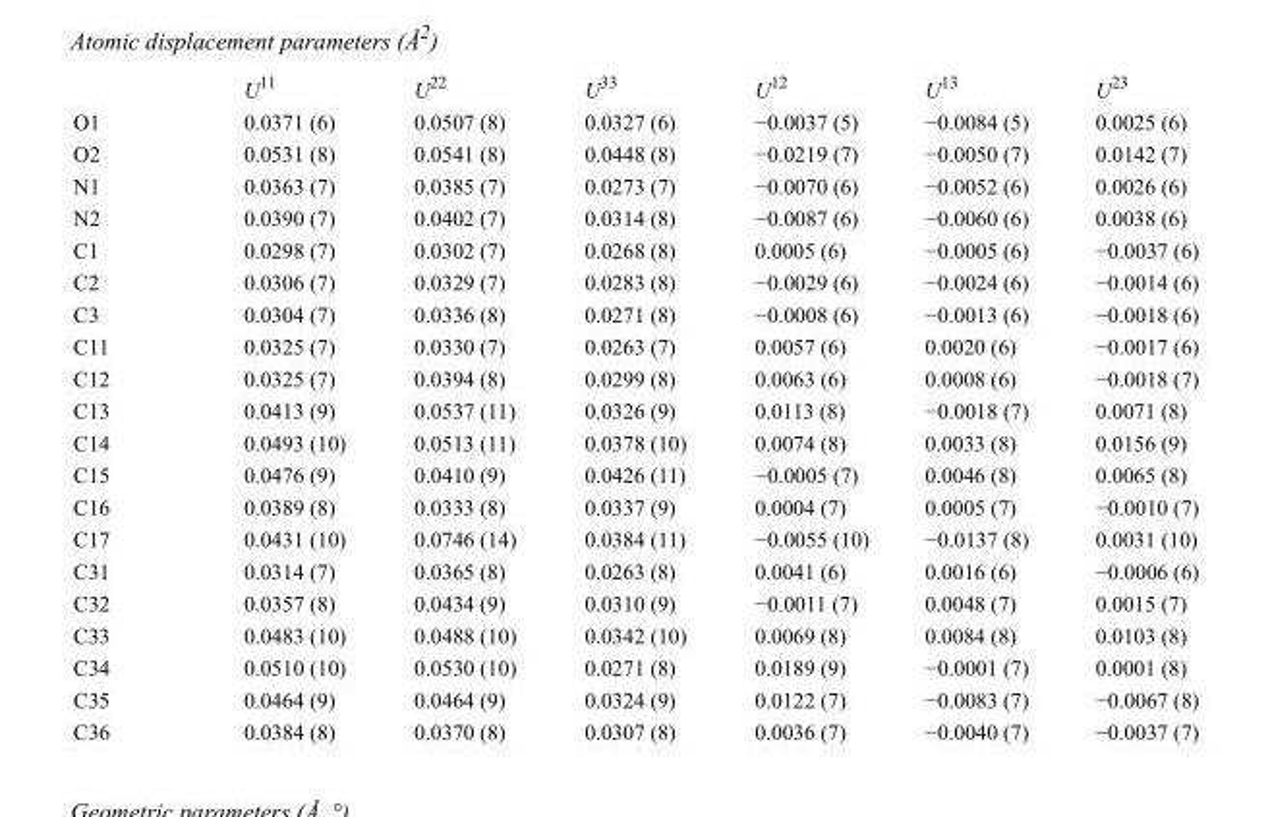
<table><thead><tr><td></td><td>U<sup>11</sup></td><td>U<sup>22</sup></td><td>U<sup>33</sup></td><td>U<sup>12</sup></td><td>U<sup>13</sup></td><td>U<sup>23</sup></td></tr></thead><tbody><tr><td>O1</td><td>0.0371 (6)</td><td>0.0507 (8)</td><td>0.0327 (6)</td><td>−0.0037 (5)</td><td>−0.0084 (5)</td><td>0.0025 (6)</td></tr><tr><td>O2</td><td>0.0531 (8)</td><td>0.0541 (8)</td><td>0.0448 (8)</td><td>−0.0219 (7)</td><td>−0.0050 (7)</td><td>0.0142 (7)</td></tr><tr><td>N1</td><td>0.0363 (7)</td><td>0.0385 (7)</td><td>0.0273 (7)</td><td>−0.0070 (6)</td><td>−0.0052 (6)</td><td>0.0026 (6)</td></tr><tr><td>N2</td><td>0.0390 (7)</td><td>0.0402 (7)</td><td>0.0314 (8)</td><td>−0.0087 (6)</td><td>−0.0060 (6)</td><td>0.0038 (6)</td></tr><tr><td>C1</td><td>0.0298 (7)</td><td>0.0302 (7)</td><td>0.0268 (8)</td><td>0.0005 (6)</td><td>−0.0005 (6)</td><td>−0.0037 (6)</td></tr><tr><td>C2</td><td>0.0306 (7)</td><td>0.0329 (7)</td><td>0.0283 (8)</td><td>−0.0029 (6)</td><td>−0.0024 (6)</td><td>−0.0014 (6)</td></tr><tr><td>C3</td><td>0.0304 (7)</td><td>0.0336 (8)</td><td>0.0271 (8)</td><td>−0.0008 (6)</td><td>−0.0013 (6)</td><td>−0.0018 (6)</td></tr><tr><td>C11</td><td>0.0325 (7)</td><td>0.0330 (7)</td><td>0.0263 (7)</td><td>0.0057 (6)</td><td>0.0020 (6)</td><td>−0.0017 (6)</td></tr><tr><td>C12</td><td>0.0325 (7)</td><td>0.0394 (8)</td><td>0.0299 (8)</td><td>0.0063 (6)</td><td>0.0008 (6)</td><td>−0.0018 (7)</td></tr><tr><td>C13</td><td>0.0413 (9)</td><td>0.0537 (11)</td><td>0.0326 (9)</td><td>0.0113 (8)</td><td>−0.0018 (7)</td><td>0.0071 (8)</td></tr><tr><td>C14</td><td>0.0493 (10)</td><td>0.0513 (11)</td><td>0.0378 (10)</td><td>0.0074 (8)</td><td>0.0033 (8)</td><td>0.0156 (9)</td></tr><tr><td>C15</td><td>0.0476 (9)</td><td>0.0410 (9)</td><td>0.0426 (11)</td><td>−0.0005 (7)</td><td>0.0046 (8)</td><td>0.0065 (8)</td></tr><tr><td>C16</td><td>0.0389 (8)</td><td>0.0333 (8)</td><td>0.0337 (9)</td><td>0.0004 (7)</td><td>0.0005 (7)</td><td>−0.0010 (7)</td></tr><tr><td>C17</td><td>0.0431 (10)</td><td>0.0746 (14)</td><td>0.0384 (11)</td><td>−0.0055 (10)</td><td>−0.0137 (8)</td><td>0.0031 (10)</td></tr><tr><td>C31</td><td>0.0314 (7)</td><td>0.0365 (8)</td><td>0.0263 (8)</td><td>0.0041 (6)</td><td>0.0016 (6)</td><td>−0.0006 (6)</td></tr><tr><td>C32</td><td>0.0357 (8)</td><td>0.0434 (9)</td><td>0.0310 (9)</td><td>−0.0011 (7)</td><td>0.0048 (7)</td><td>0.0015 (7)</td></tr><tr><td>C33</td><td>0.0483 (10)</td><td>0.0488 (10)</td><td>0.0342 (10)</td><td>0.0069 (8)</td><td>0.0084 (8)</td><td>0.0103 (8)</td></tr><tr><td>C34</td><td>0.0510 (10)</td><td>0.0530 (10)</td><td>0.0271 (8)</td><td>0.0189 (9)</td><td>−0.0001 (7)</td><td>0.0001 (8)</td></tr><tr><td>C35</td><td>0.0464 (9)</td><td>0.0464 (9)</td><td>0.0324 (9)</td><td>0.0122 (7)</td><td>−0.0083 (7)</td><td>−0.0067 (8)</td></tr><tr><td>C36</td><td>0.0384 (8)</td><td>0.0370 (8)</td><td>0.0307 (8)</td><td>0.0036 (7)</td><td>−0.0040 (7)</td><td>−0.0037 (7)</td></tr></tbody></table>